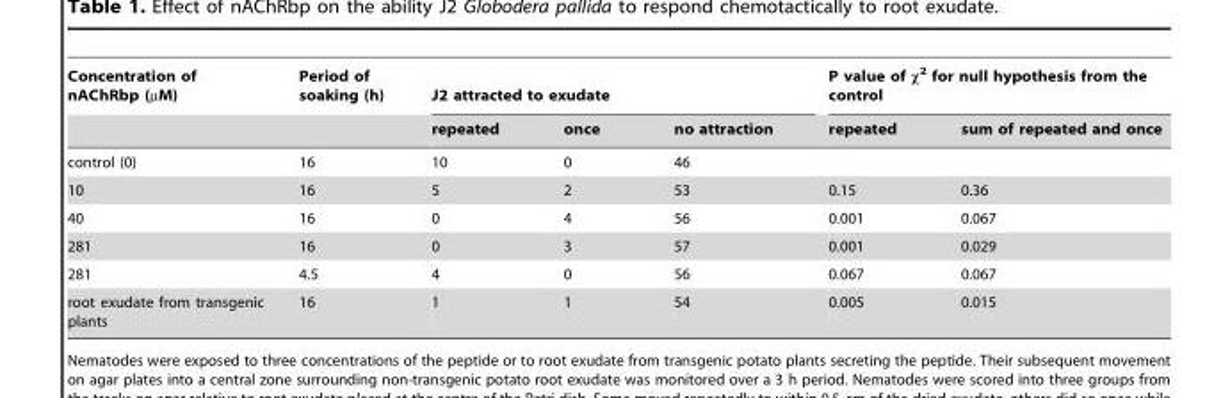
<table><thead><tr><td rowspan="2">Concentration of nAChRbp (µM)</td><td rowspan="2">Period of soaking (h)</td><td colspan="3">J2 attracted to exudate</td><td colspan="2">P value of χ<sup>2</sup> for null hypothesis from the control</td></tr><tr><td>repeated</td><td>once</td><td>no attraction</td><td>repeated</td><td>sum of repeated and once</td></tr></thead><tbody><tr><td>control (0)</td><td>16</td><td>10</td><td>0</td><td>46</td><td></td><td></td></tr><tr><td>10</td><td>16</td><td>5</td><td>2</td><td>53</td><td>0.15</td><td>0.36</td></tr><tr><td>40</td><td>16</td><td>0</td><td>4</td><td>56</td><td>0.001</td><td>0.067</td></tr><tr><td>281</td><td>16</td><td>0</td><td>3</td><td>57</td><td>0.001</td><td>0.029</td></tr><tr><td>281</td><td>4.5</td><td>4</td><td>0</td><td>56</td><td>0.067</td><td>0.067</td></tr><tr><td>root exudate from transgenic plants</td><td>16</td><td>1</td><td>1</td><td>54</td><td>0.005</td><td>0.015</td></tr></tbody></table>